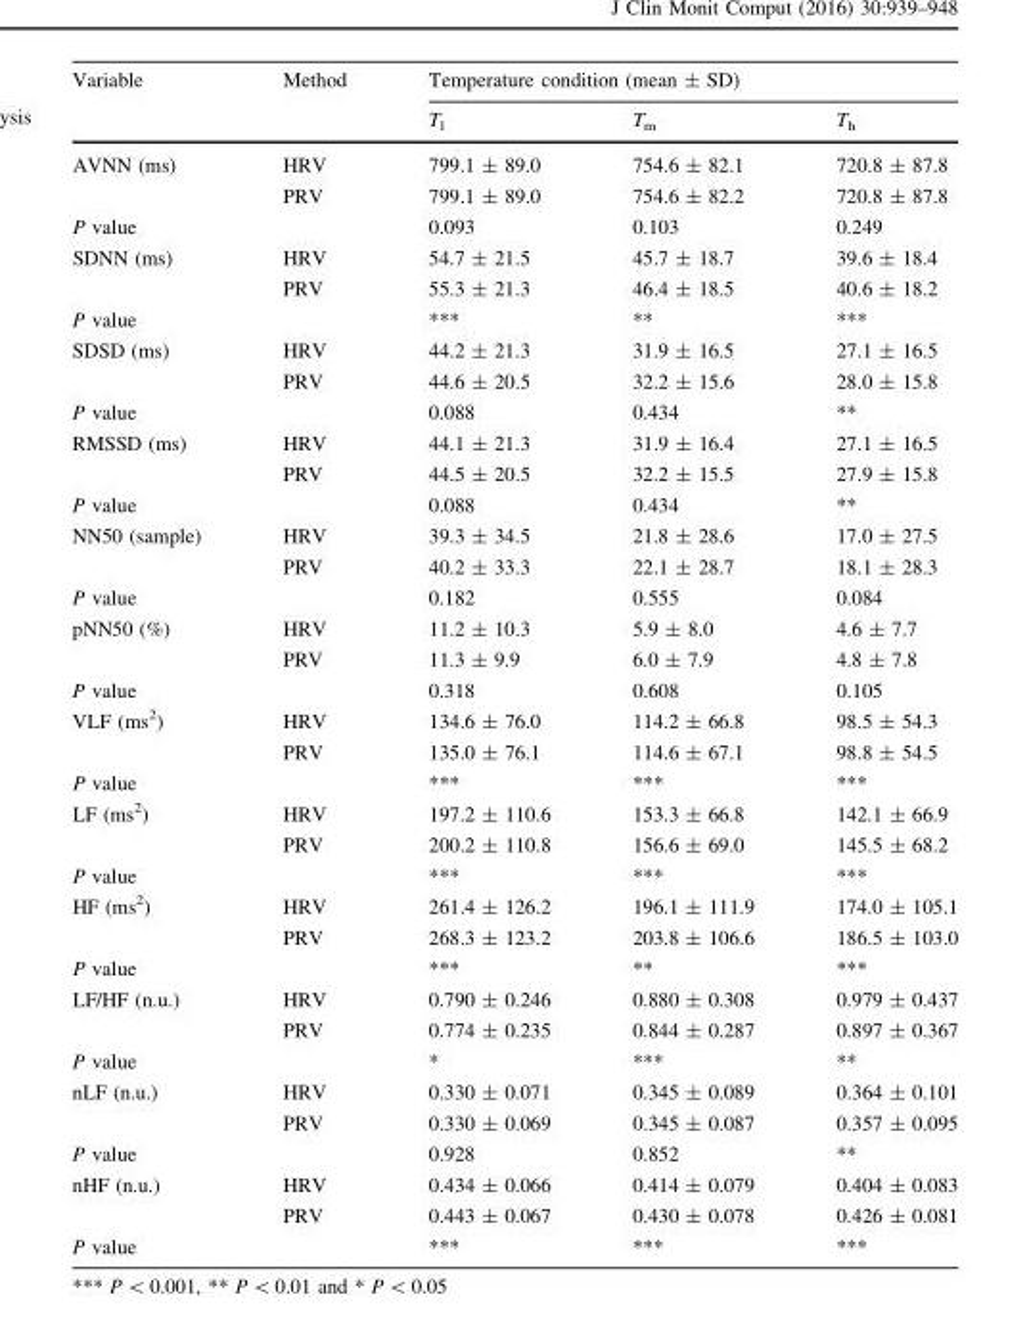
<table><thead><tr><td rowspan="2">Variable</td><td rowspan="2">Method</td><td colspan="3">Temperature condition (mean ± SD)</td></tr><tr><td>T<sub>l</sub></td><td>T<sub>m</sub></td><td>T<sub>h</sub></td></tr></thead><tbody><tr><td rowspan="2">AVNN (ms)</td><td>HRV</td><td>799.1 ± 89.0</td><td>754.6 ± 82.1</td><td>720.8 ± 87.8</td></tr><tr><td>PRV</td><td>799.1 ± 89.0</td><td>754.6 ± 82.2</td><td>720.8 ± 87.8</td></tr><tr><td colspan="2">P value</td><td>0.093</td><td>0.103</td><td>0.249</td></tr><tr><td rowspan="2">SDNN (ms)</td><td>HRV</td><td>54.7 ± 21.5</td><td>45.7 ± 18.7</td><td>39.6 ± 18.4</td></tr><tr><td>PRV</td><td>55.3 ± 21.3</td><td>46.4 ± 18.5</td><td>40.6 ± 18.2</td></tr><tr><td colspan="2">P value</td><td>***</td><td>**</td><td>***</td></tr><tr><td rowspan="2">SDSD (ms)</td><td>HRV</td><td>44.2 ± 21.3</td><td>31.9 ± 16.5</td><td>27.1 ± 16.5</td></tr><tr><td>PRV</td><td>44.6 ± 20.5</td><td>32.2 ± 15.6</td><td>28.0 ± 15.8</td></tr><tr><td colspan="2">P value</td><td>0.088</td><td>0.434</td><td>**</td></tr><tr><td rowspan="2">RMSSD (ms)</td><td>HRV</td><td>44.1 ± 21.3</td><td>31.9 ± 16.4</td><td>27.1 ± 16.5</td></tr><tr><td>PRV</td><td>44.5 ± 20.5</td><td>32.2 ± 15.5</td><td>27.9 ± 15.8</td></tr><tr><td colspan="2">P value</td><td>0.088</td><td>0.434</td><td>**</td></tr><tr><td rowspan="2">NN50 (sample)</td><td>HRV</td><td>39.3 ± 34.5</td><td>21.8 ± 28.6</td><td>17.0 ± 27.5</td></tr><tr><td>PRV</td><td>40.2 ± 33.3</td><td>22.1 ± 28.7</td><td>18.1 ± 28.3</td></tr><tr><td colspan="2">P value</td><td>0.182</td><td>0.555</td><td>0.084</td></tr><tr><td rowspan="2">pNN50 (%)</td><td>HRV</td><td>11.2 ± 10.3</td><td>5.9 ± 8.0</td><td>4.6 ± 7.7</td></tr><tr><td>PRV</td><td>11.3 ± 9.9</td><td>6.0 ± 7.9</td><td>4.8 ± 7.8</td></tr><tr><td colspan="2">P value</td><td>0.318</td><td>0.608</td><td>0.105</td></tr><tr><td rowspan="2">VLF (ms<sup>2</sup>)</td><td>HRV</td><td>134.6 ± 76.0</td><td>114.2 ± 66.8</td><td>98.5 ± 54.3</td></tr><tr><td>PRV</td><td>135.0 ± 76.1</td><td>114.6 ± 67.1</td><td>98.8 ± 54.5</td></tr><tr><td colspan="2">P value</td><td>***</td><td>***</td><td>***</td></tr><tr><td rowspan="2">LF (ms<sup>2</sup>)</td><td>HRV</td><td>197.2 ± 110.6</td><td>153.3 ± 66.8</td><td>142.1 ± 66.9</td></tr><tr><td>PRV</td><td>200.2 ± 110.8</td><td>156.6 ± 69.0</td><td>145.5 ± 68.2</td></tr><tr><td colspan="2">P value</td><td>***</td><td>***</td><td>***</td></tr><tr><td rowspan="2">HF (ms<sup>2</sup>)</td><td>HRV</td><td>261.4 ± 126.2</td><td>196.1 ± 111.9</td><td>174.0 ± 105.1</td></tr><tr><td>PRV</td><td>268.3 ± 123.2</td><td>203.8 ± 106.6</td><td>186.5 ± 103.0</td></tr><tr><td colspan="2">P value</td><td>***</td><td>**</td><td>***</td></tr><tr><td rowspan="2">LF/HF (n.u.)</td><td>HRV</td><td>0.790 ± 0.246</td><td>0.880 ± 0.308</td><td>0.979 ± 0.437</td></tr><tr><td>PRV</td><td>0.774 ± 0.235</td><td>0.844 ± 0.287</td><td>0.897 ± 0.367</td></tr><tr><td colspan="2">P value</td><td>*</td><td>***</td><td>**</td></tr><tr><td rowspan="2">nLF (n.u.)</td><td>HRV</td><td>0.330 ± 0.071</td><td>0.345 ± 0.089</td><td>0.364 ± 0.101</td></tr><tr><td>PRV</td><td>0.330 ± 0.069</td><td>0.345 ± 0.087</td><td>0.357 ± 0.095</td></tr><tr><td colspan="2">P value</td><td>0.928</td><td>0.852</td><td>**</td></tr><tr><td rowspan="2">nHF (n.u.)</td><td>HRV</td><td>0.434 ± 0.066</td><td>0.414 ± 0.079</td><td>0.404 ± 0.083</td></tr><tr><td>PRV</td><td>0.443 ± 0.067</td><td>0.430 ± 0.078</td><td>0.426 ± 0.081</td></tr><tr><td colspan="2">P value</td><td>***</td><td>***</td><td>***</td></tr></tbody></table>